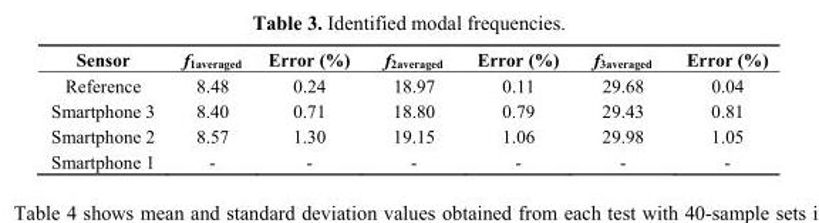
<table><thead><tr><td>Sensor</td><td>f<sub>1averaged</sub></td><td>Error (%)</td><td>f<sub>2averaged</sub></td><td>Error (%)</td><td>f<sub>3averaged</sub></td><td>Error (%)</td></tr></thead><tbody><tr><td>Reference</td><td>8.48</td><td>0.24</td><td>18.97</td><td>0.11</td><td>29.68</td><td>0.04</td></tr><tr><td>Smartphone 3</td><td>8.40</td><td>0.71</td><td>18.80</td><td>0.79</td><td>29.43</td><td>0.81</td></tr><tr><td>Smartphone 2</td><td>8.57</td><td>1.30</td><td>19.15</td><td>1.06</td><td>29.98</td><td>1.05</td></tr><tr><td>Smartphone 1</td><td>-</td><td>-</td><td>-</td><td>-</td><td>-</td><td>-</td></tr></tbody></table>